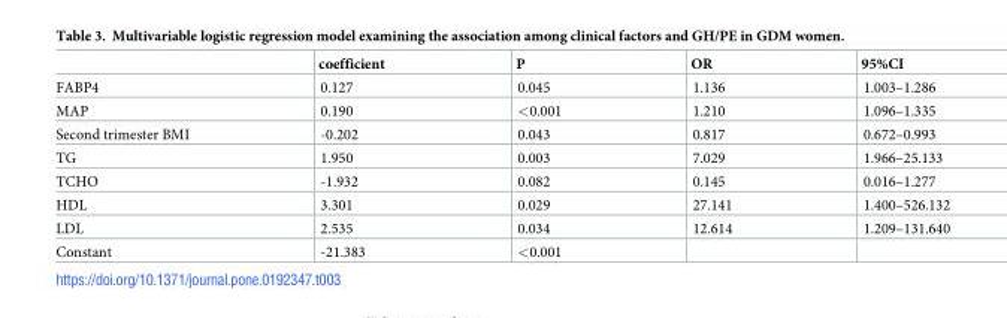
<table><thead><tr><td></td><td>coefficient</td><td>P</td><td>OR</td><td>95%CI</td></tr></thead><tbody><tr><td>FABP4</td><td>0.127</td><td>0.045</td><td>1.136</td><td>1.003–1.286</td></tr><tr><td>MAP</td><td>0.190</td><td>&lt;0.001</td><td>1.210</td><td>1.096–1.335</td></tr><tr><td>Second trimester BMI</td><td>-0.202</td><td>0.043</td><td>0.817</td><td>0.672–0.993</td></tr><tr><td>TG</td><td>1.950</td><td>0.003</td><td>7.029</td><td>1.966–25.133</td></tr><tr><td>TCHO</td><td>-1.932</td><td>0.082</td><td>0.145</td><td>0.016–1.277</td></tr><tr><td>HDL</td><td>3.301</td><td>0.029</td><td>27.141</td><td>1.400–526.132</td></tr><tr><td>LDL</td><td>2.535</td><td>0.034</td><td>12.614</td><td>1.209–131.640</td></tr><tr><td>Constant</td><td>-21.383</td><td>&lt;0.001</td><td></td><td></td></tr></tbody></table>